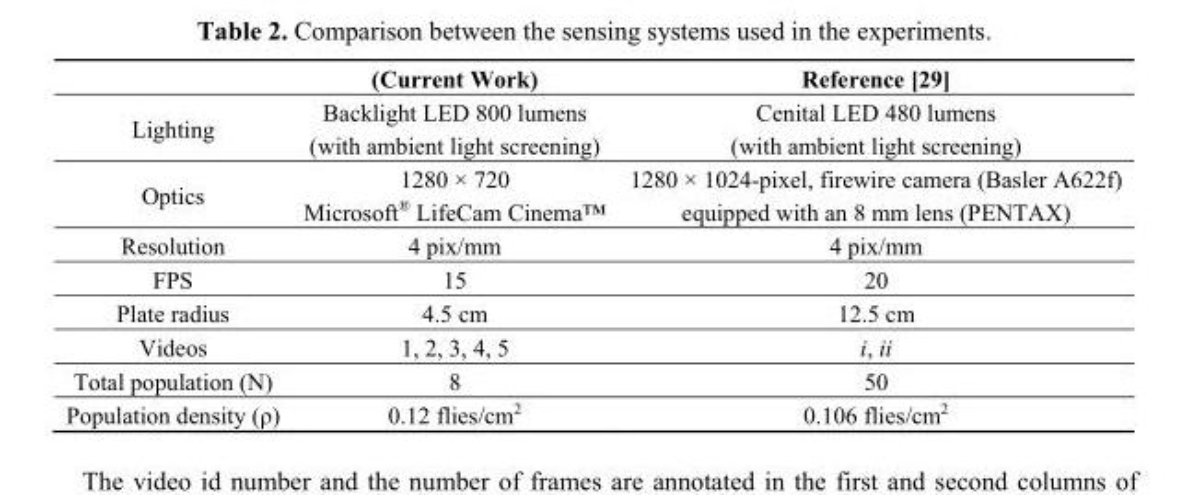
<table><thead><tr><td></td><td>(Current Work)</td><td>Reference [29]</td></tr></thead><tbody><tr><td>Lighting</td><td>Backlight LED 800 lumens (with ambient light screening)</td><td>Cenital LED 480 lumens (with ambient light screening)</td></tr><tr><td>Optics</td><td>1280 × 720 Microsoft<sup>®</sup> LifeCam Cinema™</td><td>1280 × 1024-pixel, firewire camera (Basler A622f) equipped with an 8 mm lens (PENTAX)</td></tr><tr><td>Resolution</td><td>4 pix/mm</td><td>4 pix/mm</td></tr><tr><td>FPS</td><td>15</td><td>20</td></tr><tr><td>Plate radius</td><td>4.5 cm</td><td>12.5 cm</td></tr><tr><td>Videos</td><td>1, 2, 3, 4, 5</td><td>i, ii</td></tr><tr><td>Total population (N)</td><td>8</td><td>50</td></tr><tr><td>Population density (ρ)</td><td>0.12 flies/cm<sup>2</sup></td><td>0.106 flies/cm<sup>2</sup></td></tr></tbody></table>